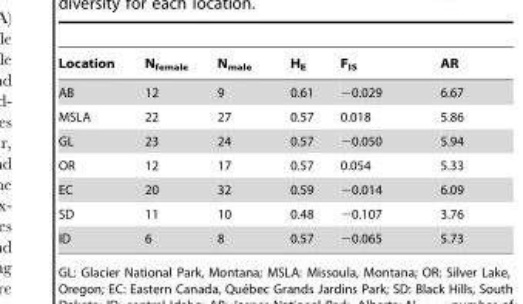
<table><thead><tr><td>Location</td><td>N<sub>female</sub></td><td>N<sub>male</sub></td><td>H<sub>E</sub></td><td>F<sub>IS</sub></td><td>AR</td></tr></thead><tbody><tr><td>AB</td><td>12</td><td>9</td><td>0.61</td><td>−0.029</td><td>6.67</td></tr><tr><td>MSLA</td><td>22</td><td>27</td><td>0.57</td><td>0.018</td><td>5.86</td></tr><tr><td>GL</td><td>23</td><td>24</td><td>0.57</td><td>−0.050</td><td>5.94</td></tr><tr><td>OR</td><td>12</td><td>17</td><td>0.57</td><td>0.054</td><td>5.33</td></tr><tr><td>EC</td><td>20</td><td>32</td><td>0.59</td><td>−0.014</td><td>6.09</td></tr><tr><td>SD</td><td>11</td><td>10</td><td>0.48</td><td>−0.107</td><td>3.76</td></tr><tr><td>ID</td><td>6</td><td>8</td><td>0.57</td><td>−0.065</td><td>5.73</td></tr></tbody></table>